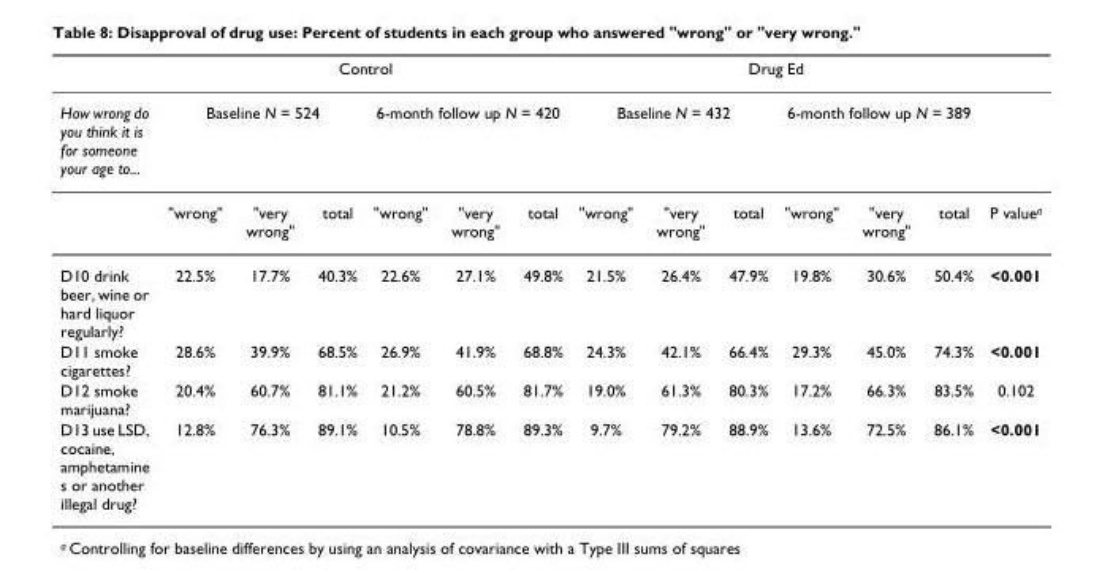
<table><thead><tr><td rowspan="3">How wrong do you think it is for someone your age to...</td><td colspan="6">Control</td><td colspan="6">Drug Ed</td><td rowspan="3">P value<sup>a</sup></td></tr><tr><td colspan="3">Baseline N = 524</td><td colspan="3">6-month follow up N = 420</td><td colspan="3">Baseline N = 432</td><td colspan="3">6-month follow up N = 389</td></tr><tr><td>&quot;wrong&quot;</td><td>&quot;very wrong&quot;</td><td>total</td><td>&quot;wrong&quot;</td><td>&quot;very wrong&quot;</td><td>total</td><td>&quot;wrong&quot;</td><td>&quot;very wrong&quot;</td><td>total</td><td>&quot;wrong&quot;</td><td>&quot;very wrong&quot;</td><td>total</td></tr></thead><tbody><tr><td>D10 drink beer, wine or hard liquor regularly?</td><td>22.5%</td><td>17.7%</td><td>40.3%</td><td>22.6%</td><td>27.1%</td><td>49.8%</td><td>21.5%</td><td>26.4%</td><td>47.9%</td><td>19.8%</td><td>30.6%</td><td>50.4%</td><td>&lt;0.001</td></tr><tr><td>D11 smoke cigarettes?</td><td>28.6%</td><td>39.9%</td><td>68.5%</td><td>26.9%</td><td>41.9%</td><td>68.8%</td><td>24.3%</td><td>42.1%</td><td>66.4%</td><td>29.3%</td><td>45.0%</td><td>74.3%</td><td>&lt;0.001</td></tr><tr><td>D12 smoke marijuana?</td><td>20.4%</td><td>60.7%</td><td>81.1%</td><td>21.2%</td><td>60.5%</td><td>81.7%</td><td>19.0%</td><td>61.3%</td><td>80.3%</td><td>17.2%</td><td>66.3%</td><td>83.5%</td><td>0.102</td></tr><tr><td>D13 use LSD, cocaine, amphetamine s or another illegal drug?</td><td>12.8%</td><td>76.3%</td><td>89.1%</td><td>10.5%</td><td>78.8%</td><td>89.3%</td><td>9.7%</td><td>79.2%</td><td>88.9%</td><td>13.6%</td><td>72.5%</td><td>86.1%</td><td>&lt;0.001</td></tr></tbody></table>